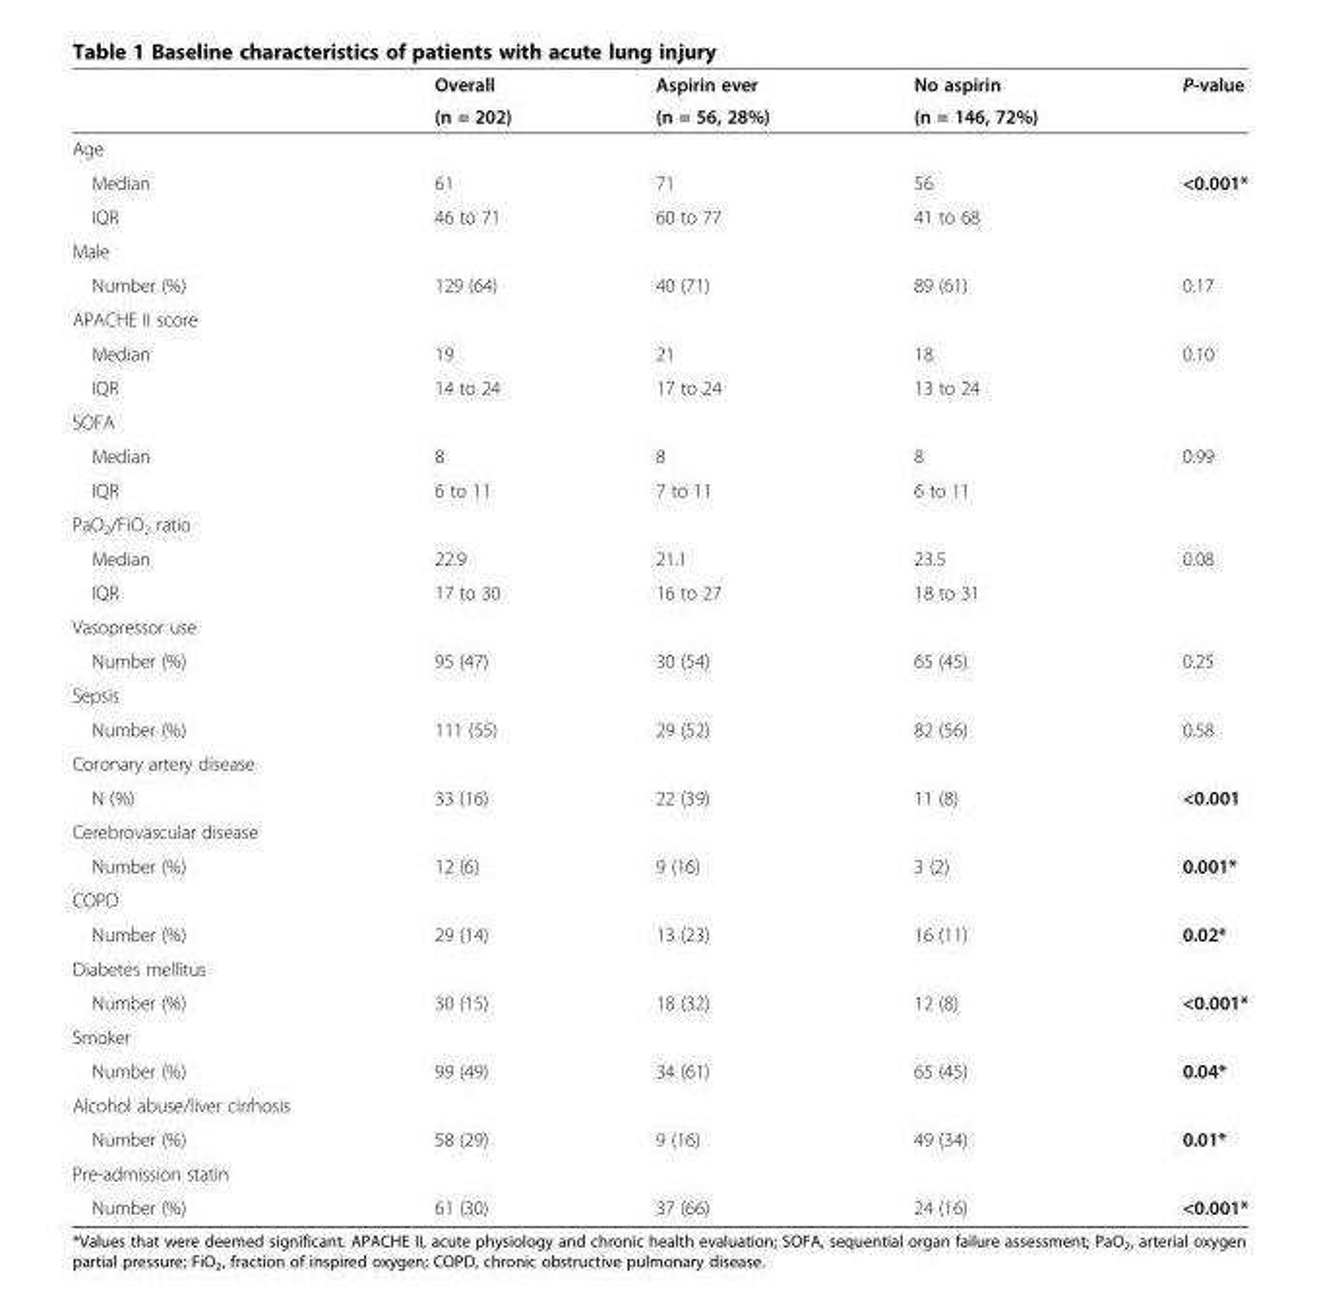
<table><thead><tr><td rowspan="2"></td><td rowspan="2">Overall (n = 202)</td><td rowspan="2">Aspirin ever (n = 56, 28%)</td><td rowspan="2">No aspirin (n = 146, 72%)</td><td rowspan="2">P-value</td></tr><tr></tr></thead><tbody><tr><td colspan="5">Age</td></tr><tr><td>Median</td><td>61</td><td>71</td><td>56</td><td rowspan="2">&lt;0.001*</td></tr><tr><td>IQR</td><td>46 to 71</td><td>60 to 77</td><td>41 to 68</td></tr><tr><td colspan="5">Male</td></tr><tr><td>Number (%)</td><td>129 (64)</td><td>40 (71)</td><td>89 (61)</td><td>0.17</td></tr><tr><td colspan="5">APACHE II score</td></tr><tr><td>Median</td><td>19</td><td>21</td><td>18</td><td rowspan="2">0.10</td></tr><tr><td>IQR</td><td>14 to 24</td><td>17 to 24</td><td>13 to 24</td></tr><tr><td colspan="5">SOFA</td></tr><tr><td>Median</td><td>8</td><td>8</td><td>8</td><td rowspan="2">0.99</td></tr><tr><td>IQR</td><td>6 to 11</td><td>7 to 11</td><td>6 to 11</td></tr><tr><td colspan="5">PaO<sub>2</sub>/FiO<sub>2</sub> ratio</td></tr><tr><td>Median</td><td>22.9</td><td>21.1</td><td>23.5</td><td rowspan="2">0.08</td></tr><tr><td>IQR</td><td>17 to 30</td><td>16 to 27</td><td>18 to 31</td></tr><tr><td colspan="5">Vasopressor use</td></tr><tr><td>Number (%)</td><td>95 (47)</td><td>30 (54)</td><td>65 (45)</td><td>0.25</td></tr><tr><td colspan="5">Sepsis</td></tr><tr><td>Number (%)</td><td>111 (55)</td><td>29 (52)</td><td>82 (56)</td><td>0.58</td></tr><tr><td colspan="5">Coronary artery disease</td></tr><tr><td>N (%)</td><td>33 (16)</td><td>22 (39)</td><td>11 (8)</td><td>&lt;0.001</td></tr><tr><td colspan="5">Cerebrovascular disease</td></tr><tr><td>Number (%)</td><td>12 (6)</td><td>9 (16)</td><td>3 (2)</td><td>0.001*</td></tr><tr><td colspan="5">COPD</td></tr><tr><td>Number (%)</td><td>29 (14)</td><td>13 (23)</td><td>16 (11)</td><td>0.02*</td></tr><tr><td colspan="5">Diabetes mellitus</td></tr><tr><td>Number (%)</td><td>30 (15)</td><td>18 (32)</td><td>12 (8)</td><td>&lt;0.001*</td></tr><tr><td colspan="5">Smoker</td></tr><tr><td>Number (%)</td><td>99 (49)</td><td>34 (61)</td><td>65 (45)</td><td>0.04*</td></tr><tr><td colspan="5">Alcohol abuse/liver cirrhosis</td></tr><tr><td>Number (%)</td><td>58 (29)</td><td>9 (16)</td><td>49 (34)</td><td>0.01*</td></tr><tr><td colspan="5">Pre-admission statin</td></tr><tr><td>Number (%)</td><td>61 (30)</td><td>37 (66)</td><td>24 (16)</td><td>&lt;0.001*</td></tr></tbody></table>